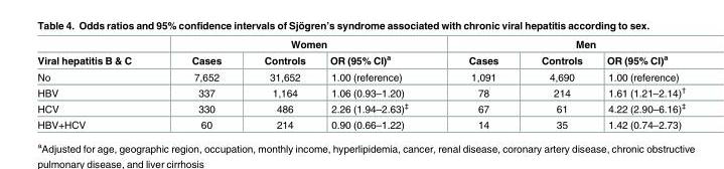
<table><thead><tr><td rowspan="2">Viral hepatitis B &amp; C</td><td colspan="3">Women</td><td colspan="3">Men</td></tr><tr><td>Cases</td><td>Controls</td><td>OR (95% CI)<sup>a</sup></td><td>Cases</td><td>Controls</td><td>OR (95% CI)<sup>a</sup></td></tr></thead><tbody><tr><td>No</td><td>7,652</td><td>31,652</td><td>1.00 (reference)</td><td>1,091</td><td>4,690</td><td>1.00 (reference)</td></tr><tr><td>HBV</td><td>337</td><td>1,164</td><td>1.06 (0.93–1.20)</td><td>78</td><td>214</td><td>1.61 (1.21–2.14)<sup>†</sup></td></tr><tr><td>HCV</td><td>330</td><td>486</td><td>2.26 (1.94–2.63)<sup>‡</sup></td><td>67</td><td>61</td><td>4.22 (2.90–6.16)<sup>‡</sup></td></tr><tr><td>HBV+HCV</td><td>60</td><td>214</td><td>0.90 (0.66–1.22)</td><td>14</td><td>35</td><td>1.42 (0.74–2.73)</td></tr></tbody></table>